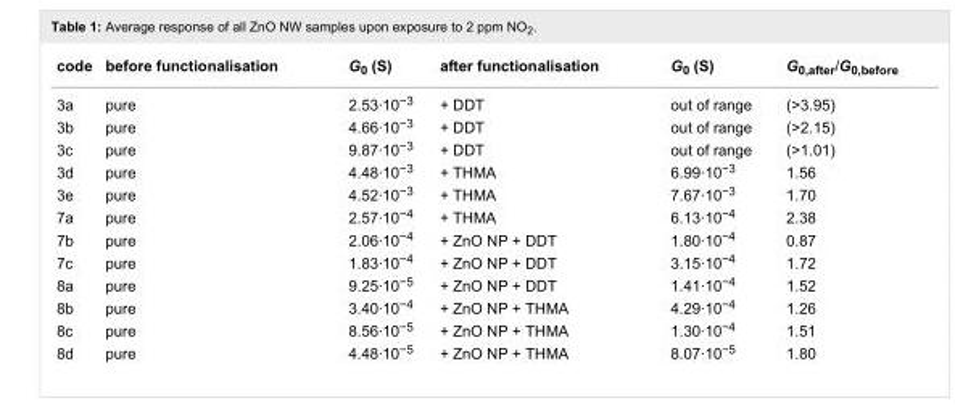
<table><tbody><tr><td>code</td><td>before functionalisation</td><td>G<sub>0</sub> (S)</td><td>after functionalisation</td><td>G<sub>0</sub> (S)</td><td>G<sub>0,after</sub>/G<sub>0,before</sub></td></tr><tr><td>3a</td><td>pure</td><td>2.53·10<sup>−3</sup></td><td>+ DDT</td><td>out of range</td><td>(&gt;3.95)</td></tr><tr><td>3b</td><td>pure</td><td>4.66·10<sup>−3</sup></td><td>+ DDT</td><td>out of range</td><td>(&gt;2.15)</td></tr><tr><td>3c</td><td>pure</td><td>9.87·10<sup>−3</sup></td><td>+ DDT</td><td>out of range</td><td>(&gt;1.01)</td></tr><tr><td>3d</td><td>pure</td><td>4.48·10<sup>−3</sup></td><td>+ THMA</td><td>6.99·10<sup>−3</sup></td><td>1.56</td></tr><tr><td>3e</td><td>pure</td><td>4.52·10<sup>−3</sup></td><td>+ THMA</td><td>7.67·10<sup>−3</sup></td><td>1.70</td></tr><tr><td>7a</td><td>pure</td><td>2.57·10<sup>−4</sup></td><td>+ THMA</td><td>6.13·10<sup>−4</sup></td><td>2.38</td></tr><tr><td>7b</td><td>pure</td><td>2.06·10<sup>−4</sup></td><td>+ ZnO NP + DDT</td><td>1.80·10<sup>−4</sup></td><td>0.87</td></tr><tr><td>7c</td><td>pure</td><td>1.83·10<sup>−4</sup></td><td>+ ZnO NP + DDT</td><td>3.15·10<sup>−4</sup></td><td>1.72</td></tr><tr><td>8a</td><td>pure</td><td>9.25·10<sup>−5</sup></td><td>+ ZnO NP + DDT</td><td>1.41·10<sup>−4</sup></td><td>1.52</td></tr><tr><td>8b</td><td>pure</td><td>3.40·10<sup>−4</sup></td><td>+ ZnO NP + THMA</td><td>4.29·10<sup>−4</sup></td><td>1.26</td></tr><tr><td>8c</td><td>pure</td><td>8.56·10<sup>−5</sup></td><td>+ ZnO NP + THMA</td><td>1.30·10<sup>−4</sup></td><td>1.51</td></tr><tr><td>8d</td><td>pure</td><td>4.48·10<sup>−5</sup></td><td>+ ZnO NP + THMA</td><td>8.07·10<sup>−5</sup></td><td>1.80</td></tr></tbody></table>